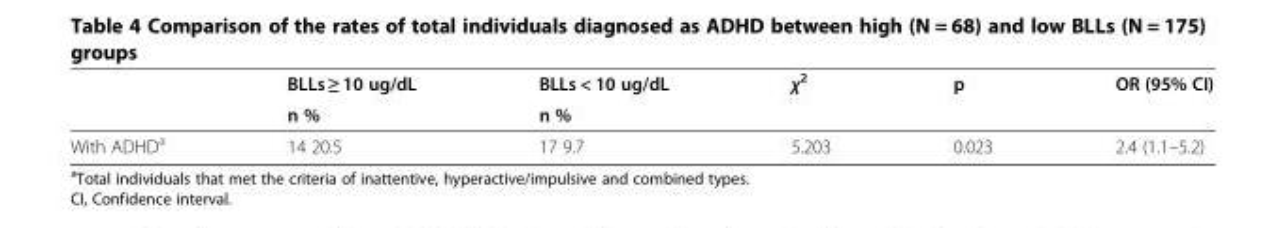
<table><thead><tr><td rowspan="2"></td><td rowspan="2">BLLs ≥ 10 ug/dL n %</td><td rowspan="2">BLLs &lt; 10 ug/dL n %</td><td rowspan="2">χ<sup>2</sup></td><td rowspan="2">p</td><td rowspan="2">OR (95% CI)</td></tr><tr></tr></thead><tbody><tr><td>With ADHD<sup>a</sup></td><td>14 20.5</td><td>17 9.7</td><td>5.203</td><td>0.023</td><td>2.4 (1.1–5.2)</td></tr></tbody></table>